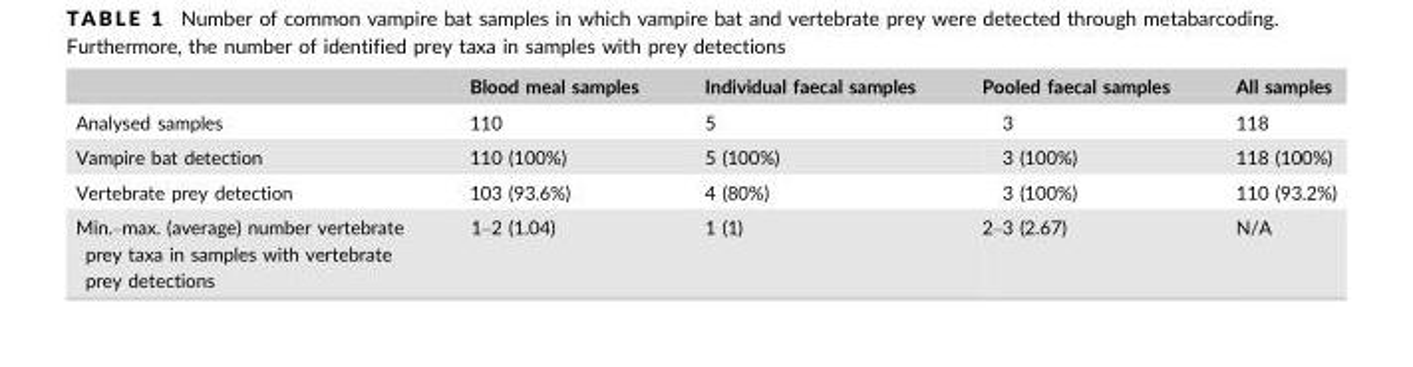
<table><thead><tr><td></td><td>Blood meal samples</td><td>Individual faecal samples</td><td>Pooled faecal samples</td><td>All samples</td></tr></thead><tbody><tr><td>Analysed samples</td><td>110</td><td>5</td><td>3</td><td>118</td></tr><tr><td>Vampire bat detection</td><td>110 (100%)</td><td>5 (100%)</td><td>3 (100%)</td><td>118 (100%)</td></tr><tr><td>Vertebrate prey detection</td><td>103 (93.6%)</td><td>4 (80%)</td><td>3 (100%)</td><td>110 (93.2%)</td></tr><tr><td>Min.–max. (average) number vertebrate prey taxa in samples with vertebrate prey detections</td><td>1–2 (1.04)</td><td>1 (1)</td><td>2–3 (2.67)</td><td>N/A</td></tr></tbody></table>